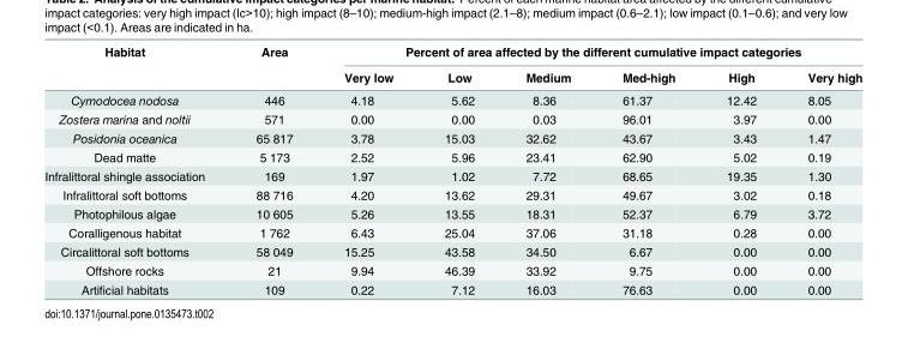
<table><thead><tr><td rowspan="2">Habitat</td><td rowspan="2">Area</td><td colspan="6">Percent of area affected by the different cumulative impact categories</td></tr><tr><td>Very low</td><td>Low</td><td>Medium</td><td>Med-high</td><td>High</td><td>Very high</td></tr></thead><tbody><tr><td>Cymodocea nodosa</td><td>446</td><td>4.18</td><td>5.62</td><td>8.36</td><td>61.37</td><td>12.42</td><td>8.05</td></tr><tr><td>Zostera marina and noltii</td><td>571</td><td>0.00</td><td>0.00</td><td>0.03</td><td>96.01</td><td>3.97</td><td>0.00</td></tr><tr><td>Posidonia oceanica</td><td>65 817</td><td>3.78</td><td>15.03</td><td>32.62</td><td>43.67</td><td>3.43</td><td>1.47</td></tr><tr><td>Dead matte</td><td>5 173</td><td>2.52</td><td>5.96</td><td>23.41</td><td>62.90</td><td>5.02</td><td>0.19</td></tr><tr><td>Infralittoral shingle association</td><td>169</td><td>1.97</td><td>1.02</td><td>7.72</td><td>68.65</td><td>19.35</td><td>1.30</td></tr><tr><td>Infralittoral soft bottoms</td><td>88 716</td><td>4.20</td><td>13.62</td><td>29.31</td><td>49.67</td><td>3.02</td><td>0.18</td></tr><tr><td>Photophilous algae</td><td>10 605</td><td>5.26</td><td>13.55</td><td>18.31</td><td>52.37</td><td>6.79</td><td>3.72</td></tr><tr><td>Coralligenous habitat</td><td>1 762</td><td>6.43</td><td>25.04</td><td>37.06</td><td>31.18</td><td>0.28</td><td>0.00</td></tr><tr><td>Circalittoral soft bottoms</td><td>58 049</td><td>15.25</td><td>43.58</td><td>34.50</td><td>6.67</td><td>0.00</td><td>0.00</td></tr><tr><td>Offshore rocks</td><td>21</td><td>9.94</td><td>46.39</td><td>33.92</td><td>9.75</td><td>0.00</td><td>0.00</td></tr><tr><td>Artificial habitats</td><td>109</td><td>0.22</td><td>7.12</td><td>16.03</td><td>76.63</td><td>0.00</td><td>0.00</td></tr></tbody></table>